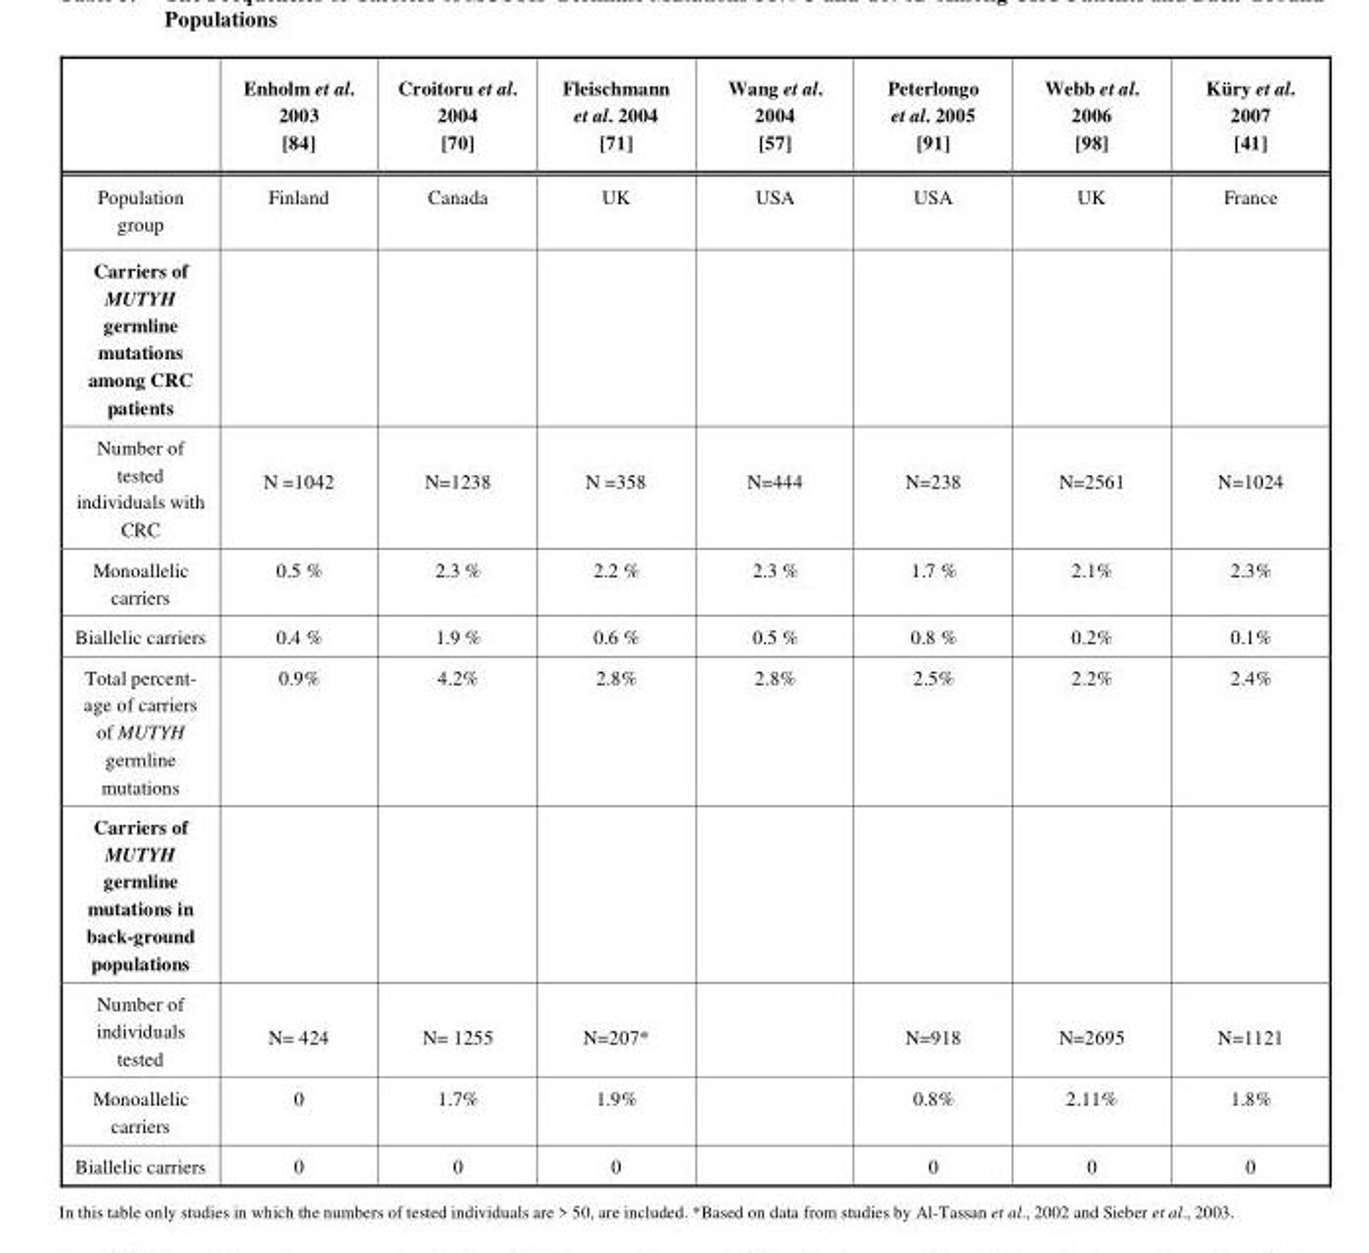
<table><thead><tr><td></td><td>Enholm et al. 2003 [84]</td><td>Croitoru et al. 2004 [70]</td><td>Fleischmann et al. 2004 [71]</td><td>Wang et al. 2004 [57]</td><td>Peterlongo et al. 2005 [91]</td><td>Webb et al. 2006 [98]</td><td>Küry et al. 2007 [41]</td></tr></thead><tbody><tr><td>Population group</td><td>Finland</td><td>Canada</td><td>UK</td><td>USA</td><td>USA</td><td>UK</td><td>France</td></tr><tr><td colspan="8">Carriers of MUTYH germline mutations among CRC patients</td></tr><tr><td>Number of tested individuals with CRC</td><td>N =1042</td><td>N=1238</td><td>N =358</td><td>N=444</td><td>N=238</td><td>N=2561</td><td>N=1024</td></tr><tr><td>Monoallelic carriers</td><td>0.5 %</td><td>2.3 %</td><td>2.2 %</td><td>2.3 %</td><td>1.7 %</td><td>2.1%</td><td>2.3%</td></tr><tr><td>Biallelic carriers</td><td>0.4 %</td><td>1.9 %</td><td>0.6 %</td><td>0.5 %</td><td>0.8 %</td><td>0.2%</td><td>0.1%</td></tr><tr><td>Total percent- age of carriers of MUTYH germline mutations</td><td>0.9%</td><td>4.2%</td><td>2.8%</td><td>2.8%</td><td>2.5%</td><td>2.2%</td><td>2.4%</td></tr><tr><td colspan="8">Carriers of MUTYH germline mutations in back-ground populations</td></tr><tr><td>Number of individuals tested</td><td>N= 424</td><td>N= 1255</td><td>N=207*</td><td></td><td>N=918</td><td>N=2695</td><td>N=1121</td></tr><tr><td>Monoallelic carriers</td><td>0</td><td>1.7%</td><td>1.9%</td><td></td><td>0.8%</td><td>2.11%</td><td>1.8%</td></tr><tr><td>Biallelic carriers</td><td>0</td><td>0</td><td>0</td><td></td><td>0</td><td>0</td><td>0</td></tr></tbody></table>